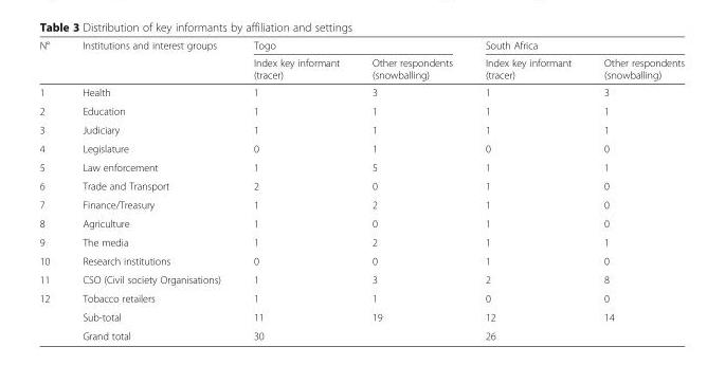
<table><thead><tr><td rowspan="2">N°</td><td rowspan="2">Institutions and interest groups</td><td colspan="2">Togo</td><td colspan="2">South Africa</td></tr><tr><td>Index key informant (tracer)</td><td>Other respondents (snowballing)</td><td>Index key informant (tracer)</td><td>Other respondents (snowballing)</td></tr></thead><tbody><tr><td>1</td><td>Health</td><td>1</td><td>3</td><td>1</td><td>3</td></tr><tr><td>2</td><td>Education</td><td>1</td><td>1</td><td>1</td><td>1</td></tr><tr><td>3</td><td>Judiciary</td><td>1</td><td>1</td><td>1</td><td>1</td></tr><tr><td>4</td><td>Legislature</td><td>0</td><td>1</td><td>0</td><td>0</td></tr><tr><td>5</td><td>Law enforcement</td><td>1</td><td>5</td><td>1</td><td>1</td></tr><tr><td>6</td><td>Trade and Transport</td><td>2</td><td>0</td><td>1</td><td>0</td></tr><tr><td>7</td><td>Finance/Treasury</td><td>1</td><td>2</td><td>1</td><td>0</td></tr><tr><td>8</td><td>Agriculture</td><td>1</td><td>0</td><td>1</td><td>0</td></tr><tr><td>9</td><td>The media</td><td>1</td><td>2</td><td>1</td><td>1</td></tr><tr><td>10</td><td>Research institutions</td><td>0</td><td>0</td><td>1</td><td>0</td></tr><tr><td>11</td><td>CSO (Civil society Organisations)</td><td>1</td><td>3</td><td>2</td><td>8</td></tr><tr><td rowspan="3">12</td><td>Tobacco retailers</td><td>1</td><td>1</td><td>0</td><td>0</td></tr><tr><td>Sub-total</td><td>11</td><td>19</td><td>12</td><td>14</td></tr><tr><td>Grand total</td><td colspan="2">30</td><td colspan="2">26</td></tr></tbody></table>